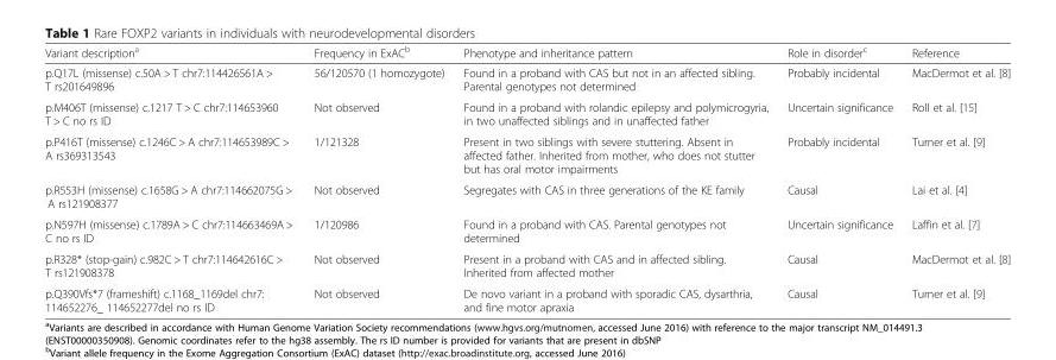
<table><thead><tr><td>Variant description<sup>a</sup></td><td>Frequency in ExAC<sup>b</sup></td><td>Phenotype and inheritance pattern</td><td>Role in disorder<sup>c</sup></td><td>Reference</td></tr></thead><tbody><tr><td>p.Q17L (missense) c.50A &gt; T chr7:114426561A &gt; T rs201649896</td><td>56/120570 (1 homozygote)</td><td>Found in a proband with CAS but not in an affected sibling. Parental genotypes not determined</td><td>Probably incidental</td><td>MacDermot et al. [8]</td></tr><tr><td>p.M406T (missense) c.1217 T &gt; C chr7:114653960 T &gt; C no rs ID</td><td>Not observed</td><td>Found in a proband with rolandic epilepsy and polymicrogyria, in two unaffected siblings and in unaffected father</td><td>Uncertain significance</td><td>Roll et al. [15]</td></tr><tr><td>p.P416T (missense) c.1246C &gt; A chr7:114653989C &gt; A rs369313543</td><td>1/121328</td><td>Present in two siblings with severe stuttering. Absent in affected father. Inherited from mother, who does not stutter but has oral motor impairments</td><td>Probably incidental</td><td>Turner et al. [9]</td></tr><tr><td>p.R553H (missense) c.1658G &gt; A chr7:114662075G &gt; A rs121908377</td><td>Not observed</td><td>Segregates with CAS in three generations of the KE family</td><td>Causal</td><td>Lai et al. [4]</td></tr><tr><td>p.N597H (missense) c.1789A &gt; C chr7:114663469A &gt; C no rs ID</td><td>1/120986</td><td>Found in a proband with CAS. Parental genotypes not determined</td><td>Uncertain significance</td><td>Laffin et al. [7]</td></tr><tr><td>p.R328* (stop-gain) c.982C &gt; T chr7:114642616C &gt; T rs121908378</td><td>Not observed</td><td>Present in a proband with CAS and in affected sibling. Inherited from affected mother</td><td>Causal</td><td>MacDermot et al. [8]</td></tr><tr><td>p.Q390Vfs*7 (frameshift) c.1168_1169del chr7: 114652276_ 114652277del no rs ID</td><td>Not observed</td><td>De novo variant in a proband with sporadic CAS, dysarthria, and fine motor apraxia</td><td>Causal</td><td>Turner et al. [9]</td></tr></tbody></table>